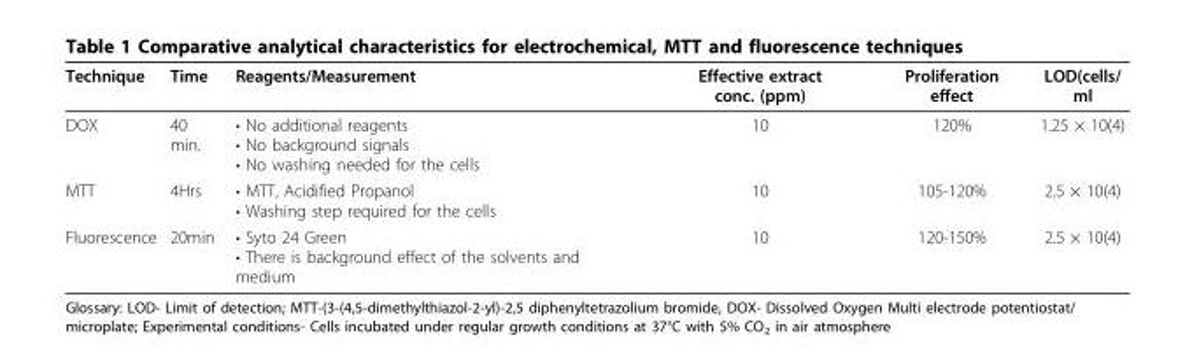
<table><thead><tr><td>Technique</td><td>Time</td><td>Reagents/Measurement</td><td>Effective extract conc. (ppm)</td><td>Proliferation effect</td><td>LOD(cells/ ml</td></tr></thead><tbody><tr><td>DOX</td><td>40 min.</td><td>• No additional reagents • No background signals • No washing needed for the cells</td><td>10</td><td>120%</td><td>1.25 × 10(4)</td></tr><tr><td>MTT</td><td>4Hrs</td><td>• MTT, Acidified Propanol • Washing step required for the cells</td><td>10</td><td>105-120%</td><td>2.5 × 10(4)</td></tr><tr><td>Fluorescence</td><td>20min</td><td>• Syto 24 Green • There is background effect of the solvents and medium</td><td>10</td><td>120-150%</td><td>2.5 × 10(4)</td></tr></tbody></table>